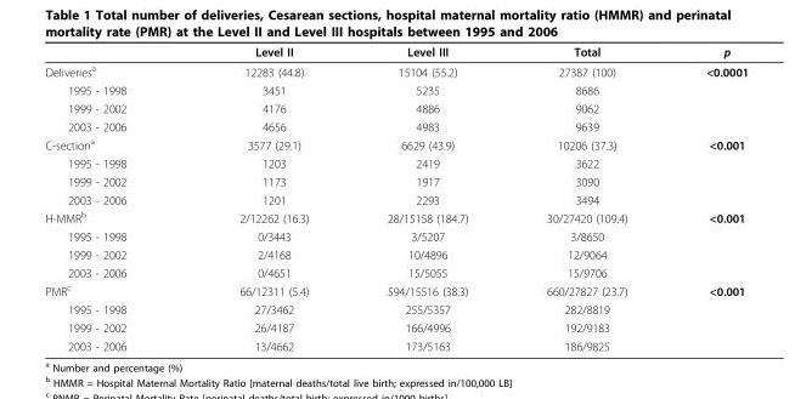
<table><thead><tr><td></td><td>Level II</td><td>Level III</td><td>Total</td><td>p</td></tr></thead><tbody><tr><td>Deliveries<sup>a</sup></td><td>12283 (44.8)</td><td>15104 (55.2)</td><td>27387 (100)</td><td>&lt;0.0001</td></tr><tr><td>1995 - 1998</td><td>3451</td><td>5235</td><td>8686</td><td></td></tr><tr><td>1999 - 2002</td><td>4176</td><td>4886</td><td>9062</td><td></td></tr><tr><td>2003 - 2006</td><td>4656</td><td>4983</td><td>9639</td><td></td></tr><tr><td>C-section<sup>a</sup></td><td>3577 (29.1)</td><td>6629 (43.9)</td><td>10206 (37.3)</td><td>&lt;0.001</td></tr><tr><td>1995 - 1998</td><td>1203</td><td>2419</td><td>3622</td><td></td></tr><tr><td>1999 - 2002</td><td>1173</td><td>1917</td><td>3090</td><td></td></tr><tr><td>2003 - 2006</td><td>1201</td><td>2293</td><td>3494</td><td></td></tr><tr><td>H-MMR<sup>b</sup></td><td>2/12262 (16.3)</td><td>28/15158 (184.7)</td><td>30/27420 (109.4)</td><td>&lt;0.001</td></tr><tr><td>1995 - 1998</td><td>0/3443</td><td>3/5207</td><td>3/8650</td><td></td></tr><tr><td>1999 - 2002</td><td>2/4168</td><td>10/4896</td><td>12/9064</td><td></td></tr><tr><td>2003 - 2006</td><td>0/4651</td><td>15/5055</td><td>15/9706</td><td></td></tr><tr><td>PMR<sup>c</sup></td><td>66/12311 (5.4)</td><td>594/15516 (38.3)</td><td>660/27827 (23.7)</td><td>&lt;0.001</td></tr><tr><td>1995 - 1998</td><td>27/3462</td><td>255/5357</td><td>282/8819</td><td></td></tr><tr><td>1999 - 2002</td><td>26/4187</td><td>166/4996</td><td>192/9183</td><td></td></tr><tr><td>2003 - 2006</td><td>13/4662</td><td>173/5163</td><td>186/9825</td><td></td></tr></tbody></table>